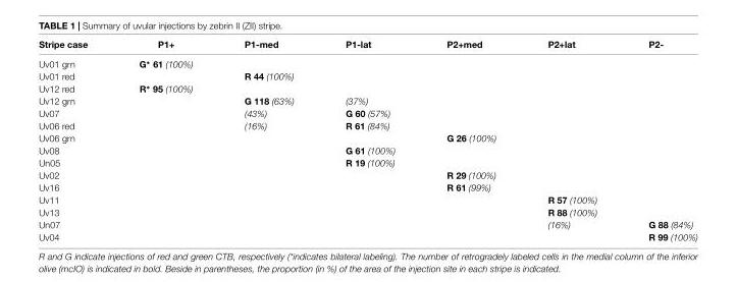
<table><thead><tr><td>Stripe case</td><td>P1+</td><td>P1-med</td><td>P1-lat</td><td>P2+med</td><td>P2+lat</td><td>P2-</td></tr></thead><tbody><tr><td>Uv01 grn</td><td>G∗ 61 (100%)</td><td></td><td></td><td></td><td></td><td></td></tr><tr><td>Uv01 red</td><td></td><td>R 44 (100%)</td><td></td><td></td><td></td><td></td></tr><tr><td>Uv12 red</td><td>R∗ 95 (100%)</td><td></td><td></td><td></td><td></td><td></td></tr><tr><td>Uv12 grn</td><td></td><td>G 118 (63%)</td><td>(37%)</td><td></td><td></td><td></td></tr><tr><td>Uv07</td><td></td><td>(43%)</td><td>G 60 (57%)</td><td></td><td></td><td></td></tr><tr><td>Uv06 red</td><td></td><td>(16%)</td><td>R 61 (84%)</td><td></td><td></td><td></td></tr><tr><td>Uv06 grn</td><td></td><td></td><td></td><td>G 26 (100%)</td><td></td><td></td></tr><tr><td>Uv08</td><td></td><td></td><td>G 61 (100%)</td><td></td><td></td><td></td></tr><tr><td>Un05</td><td></td><td></td><td>R 19 (100%)</td><td></td><td></td><td></td></tr><tr><td>Uv02</td><td></td><td></td><td></td><td>R 29 (100%)</td><td></td><td></td></tr><tr><td>Uv16</td><td></td><td></td><td></td><td>R 61 (99%)</td><td></td><td></td></tr><tr><td>Uv11</td><td></td><td></td><td></td><td></td><td>R 57 (100%)</td><td></td></tr><tr><td>Uv13</td><td></td><td></td><td></td><td></td><td>R 88 (100%)</td><td></td></tr><tr><td>Un07</td><td></td><td></td><td></td><td></td><td>(16%)</td><td>G 88 (84%)</td></tr><tr><td>Uv04</td><td></td><td></td><td></td><td></td><td></td><td>R 99 (100%)</td></tr></tbody></table>